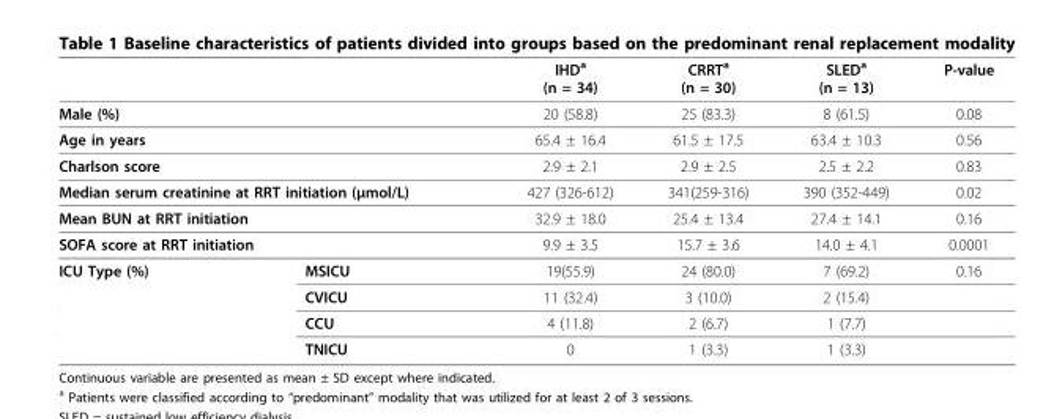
<table><thead><tr><td></td><td></td><td>IHD<sup>a</sup> (n = 34)</td><td>CRRT<sup>a</sup> (n = 30)</td><td>SLED<sup>a</sup> (n = 13)</td><td>P-value</td></tr></thead><tbody><tr><td colspan="2">Male (%)</td><td>20 (58.8)</td><td>25 (83.3)</td><td>8 (61.5)</td><td>0.08</td></tr><tr><td colspan="2">Age in years</td><td>65.4 ± 16.4</td><td>61.5 ± 17.5</td><td>63.4 ± 10.3</td><td>0.56</td></tr><tr><td colspan="2">Charlson score</td><td>2.9 ± 2.1</td><td>2.9 ± 2.5</td><td>2.5 ± 2.2</td><td>0.83</td></tr><tr><td colspan="2">Median serum creatinine at RRT initiation (μmol/L)</td><td>427 (326-612)</td><td>341(259-316)</td><td>390 (352-449)</td><td>0.02</td></tr><tr><td colspan="2">Mean BUN at RRT initiation</td><td>32.9 ± 18.0</td><td>25.4 ± 13.4</td><td>27.4 ± 14.1</td><td>0.16</td></tr><tr><td colspan="2">SOFA score at RRT initiation</td><td>9.9 ± 3.5</td><td>15.7 ± 3.6</td><td>14.0 ± 4.1</td><td>0.0001</td></tr><tr><td rowspan="4">ICU Type (%)</td><td>MSICU</td><td>19(55.9)</td><td>24 (80.0)</td><td>7 (69.2)</td><td>0.16</td></tr><tr><td>CVICU</td><td>11 (32.4)</td><td>3 (10.0)</td><td>2 (15.4)</td><td></td></tr><tr><td>CCU</td><td>4 (11.8)</td><td>2 (6.7)</td><td>1 (7.7)</td><td></td></tr><tr><td>TNICU</td><td>0</td><td>1 (3.3)</td><td>1 (3.3)</td><td></td></tr></tbody></table>